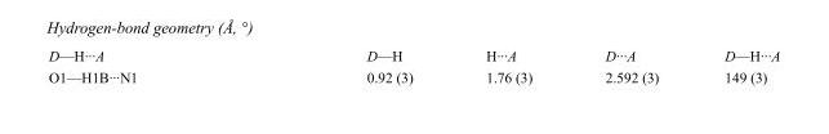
<table><tbody><tr><td>D—H···A</td><td>D—H</td><td>H···A</td><td>D···A</td><td>D—H···A</td></tr><tr><td>O1—H1B···N1</td><td>0.92 (3)</td><td>1.76 (3)</td><td>2.592 (3)</td><td>149 (3)</td></tr></tbody></table>